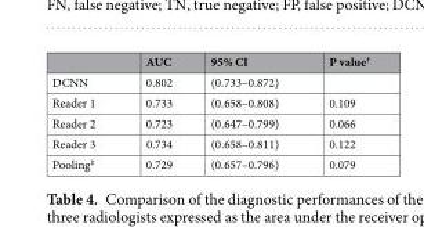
<table><thead><tr><td></td><td>AUC</td><td>95% CI</td><td>P value<sup>†</sup></td></tr></thead><tbody><tr><td>DCNN</td><td>0.802</td><td>(0.733–0.872)</td><td></td></tr><tr><td>Reader 1</td><td>0.733</td><td>(0.658–0.808)</td><td>0.109</td></tr><tr><td>Reader 2</td><td>0.723</td><td>(0.647–0.799)</td><td>0.066</td></tr><tr><td>Reader 3</td><td>0.734</td><td>(0.658–0.811)</td><td>0.122</td></tr><tr><td>Pooling<sup>‡</sup></td><td>0.729</td><td>(0.657–0.796)</td><td>0.079</td></tr></tbody></table>